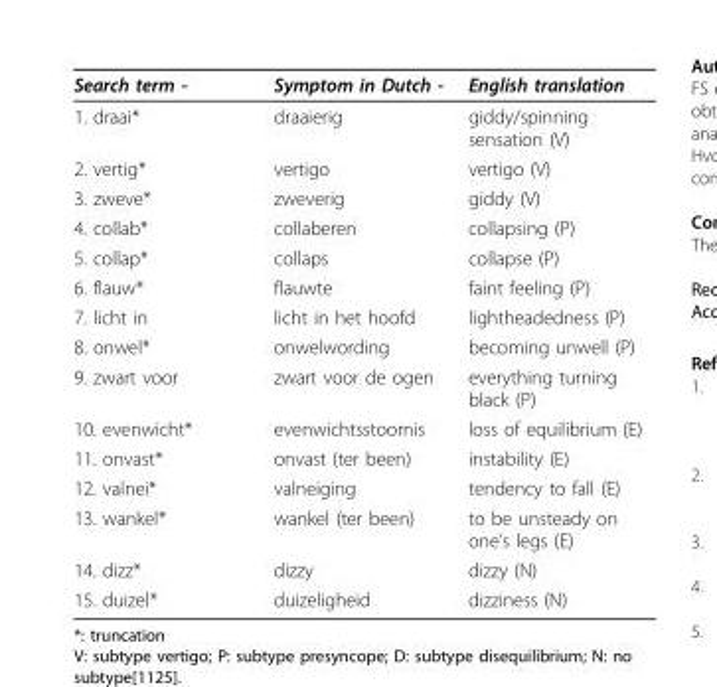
<table><tbody><tr><td>Search term -</td><td>Symptom in Dutch -</td><td>English translation</td></tr><tr><td>1. draai*</td><td>draaierig</td><td>giddy/spinning sensation (V)</td></tr><tr><td>2. vertig*</td><td>vertigo</td><td>vertigo (V)</td></tr><tr><td>3. zweve*</td><td>zweverig</td><td>giddy (V)</td></tr><tr><td>4. collab*</td><td>collaberen</td><td>collapsing (P)</td></tr><tr><td>5. collap*</td><td>collaps</td><td>collapse (P)</td></tr><tr><td>6. flauw*</td><td>flauwte</td><td>faint feeling (P)</td></tr><tr><td>7. licht in</td><td>licht in het hoofd</td><td>lightheadedness (P)</td></tr><tr><td>8. onwel*</td><td>onwelwording</td><td>becoming unwell (P)</td></tr><tr><td>9. zwart voor</td><td>zwart voor de ogen</td><td>everything turning black (P)</td></tr><tr><td>10. evenwicht*</td><td>evenwichtsstoornis</td><td>loss of equilibrium (E)</td></tr><tr><td>11. onvast*</td><td>onvast (ter been)</td><td>instability (E)</td></tr><tr><td>12. valnei*</td><td>valneiging</td><td>tendency to fall (E)</td></tr><tr><td>13. wankel*</td><td>wankel (ter been)</td><td>to be unsteady on one’s legs (E)</td></tr><tr><td>14. dizz*</td><td>dizzy</td><td>dizzy (N)</td></tr><tr><td>15. duizel*</td><td>duizeligheid</td><td>dizziness (N)</td></tr></tbody></table>